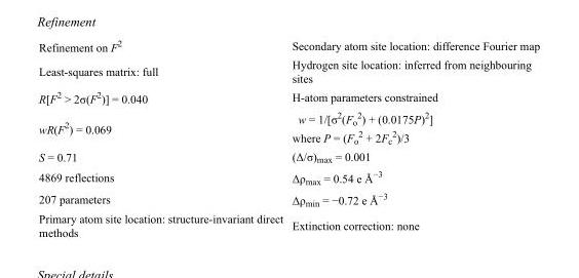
<table><tbody><tr><td>Refinement on F<sup>2</sup></td><td>Secondary atom site location: difference Fourier map</td></tr><tr><td>Least-squares matrix: full</td><td>Hydrogen site location: inferred from neighbouring sites</td></tr><tr><td>R[F<sup>2</sup> &gt; 2σ(F<sup>2</sup>)] = 0.040</td><td>H-atom parameters constrained</td></tr><tr><td>wR(F<sup>2</sup>) = 0.069</td><td>w = 1/[σ<sup>2</sup>(F<sub>o</sub> <sup>2</sup>) + (0.0175P)<sup>2</sup>] where P = (F<sub>o</sub> <sup>2</sup> + 2F<sub>c</sub> <sup>2</sup>)/3</td></tr><tr><td>S = 0.71</td><td>(Δ/σ)<sub>max</sub> = 0.001</td></tr><tr><td>4869 reflections</td><td>Δρ<sub>max</sub> = 0.54 e Å<sup>−3</sup></td></tr><tr><td>207 parameters</td><td>Δρ<sub>min</sub> = −0.72 e Å<sup>−3</sup></td></tr><tr><td>Primary atom site location: structure-invariant direct methods</td><td>Extinction correction: none</td></tr></tbody></table>